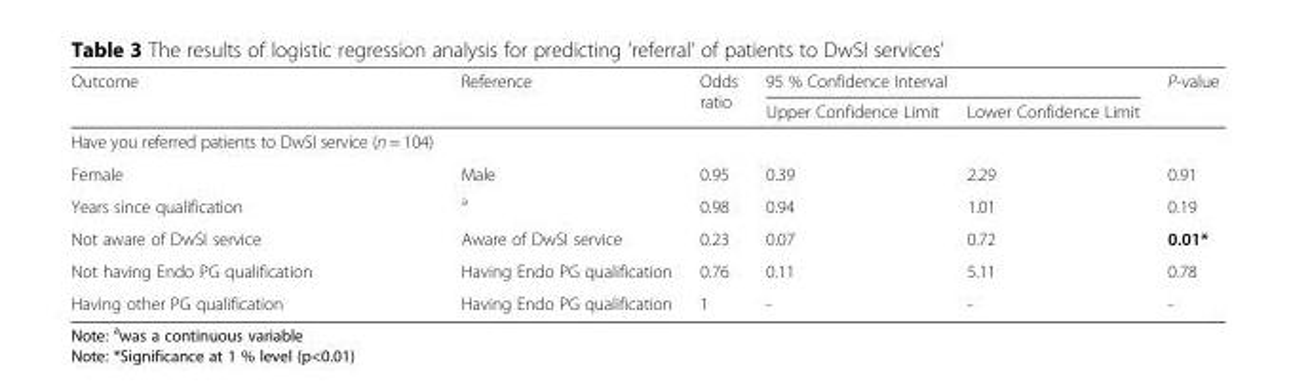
<table><thead><tr><td rowspan="2">Outcome</td><td rowspan="2">Reference</td><td rowspan="2">Odds ratio</td><td colspan="2">95 % Confidence Interval</td><td rowspan="2">P-value</td></tr><tr><td>Upper Confidence Limit</td><td>Lower Confidence Limit</td></tr></thead><tbody><tr><td colspan="6">Have you referred patients to DwSI service (n = 104)</td></tr><tr><td>Female</td><td>Male</td><td>0.95</td><td>0.39</td><td>2.29</td><td>0.91</td></tr><tr><td>Years since qualification</td><td><sup>a</sup></td><td>0.98</td><td>0.94</td><td>1.01</td><td>0.19</td></tr><tr><td>Not aware of DwSI service</td><td>Aware of DwSI service</td><td>0.23</td><td>0.07</td><td>0.72</td><td>0.01*</td></tr><tr><td>Not having Endo PG qualification</td><td>Having Endo PG qualification</td><td>0.76</td><td>0.11</td><td>5.11</td><td>0.78</td></tr><tr><td>Having other PG qualification</td><td>Having Endo PG qualification</td><td>1</td><td>-</td><td>-</td><td>-</td></tr></tbody></table>